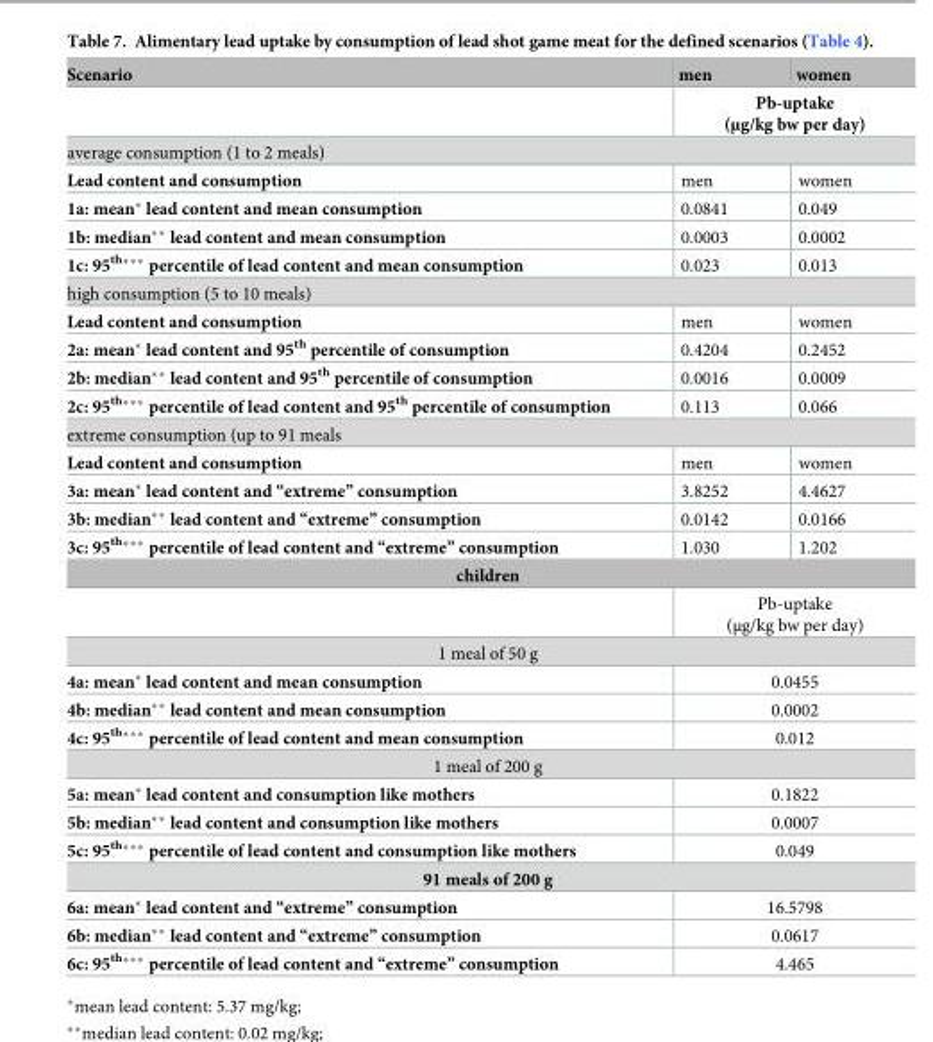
<table><thead><tr><td rowspan="2">Scenario</td><td>men</td><td>women</td></tr><tr><td colspan="2">Pb-uptake (μg/kg bw per day)</td></tr></thead><tbody><tr><td colspan="3">average consumption (1 to 2 meals)</td></tr><tr><td>Lead content and consumption</td><td>men</td><td>women</td></tr><tr><td>1a: mean* lead content and mean consumption</td><td>0.0841</td><td>0.049</td></tr><tr><td>1b: median** lead content and mean consumption</td><td>0.0003</td><td>0.0002</td></tr><tr><td>1c: 95<sup>th</sup>*** percentile of lead content and mean consumption</td><td>0.023</td><td>0.013</td></tr><tr><td colspan="3">high consumption (5 to 10 meals)</td></tr><tr><td>Lead content and consumption</td><td>men</td><td>women</td></tr><tr><td>2a: mean* lead content and 95<sup>th</sup> percentile of consumption</td><td>0.4204</td><td>0.2452</td></tr><tr><td>2b: median** lead content and 95<sup>th</sup> percentile of consumption</td><td>0.0016</td><td>0.0009</td></tr><tr><td>2c: 95<sup>th</sup>*** percentile of lead content and 95<sup>th</sup> percentile of consumption</td><td>0.113</td><td>0.066</td></tr><tr><td colspan="3">extreme consumption (up to 91 meals</td></tr><tr><td>Lead content and consumption</td><td>men</td><td>women</td></tr><tr><td>3a: mean* lead content and “extreme” consumption</td><td>3.8252</td><td>4.4627</td></tr><tr><td>3b: median** lead content and “extreme” consumption</td><td>0.0142</td><td>0.0166</td></tr><tr><td>3c: 95<sup>th</sup>*** percentile of lead content and “extreme” consumption</td><td>1.030</td><td>1.202</td></tr><tr><td colspan="3">children</td></tr><tr><td></td><td colspan="2">Pb-uptake (μg/kg bw per day)</td></tr><tr><td colspan="3">1 meal of 50 g</td></tr><tr><td>4a: mean* lead content and mean consumption</td><td colspan="2">0.0455</td></tr><tr><td>4b: median** lead content and mean consumption</td><td colspan="2">0.0002</td></tr><tr><td>4c: 95<sup>th</sup>*** percentile of lead content and mean consumption</td><td colspan="2">0.012</td></tr><tr><td colspan="3">1 meal of 200 g</td></tr><tr><td>5a: mean* lead content and consumption like mothers</td><td colspan="2">0.1822</td></tr><tr><td>5b: median** lead content and consumption like mothers</td><td colspan="2">0.0007</td></tr><tr><td>5c: 95<sup>th</sup>*** percentile of lead content and consumption like mothers</td><td colspan="2">0.049</td></tr><tr><td colspan="3">91 meals of 200 g</td></tr><tr><td>6a: mean* lead content and “extreme” consumption</td><td colspan="2">16.5798</td></tr><tr><td>6b: median** lead content and “extreme” consumption</td><td colspan="2">0.0617</td></tr><tr><td>6c: 95<sup>th</sup>*** percentile of lead content and “extreme” consumption</td><td colspan="2">4.465</td></tr></tbody></table>